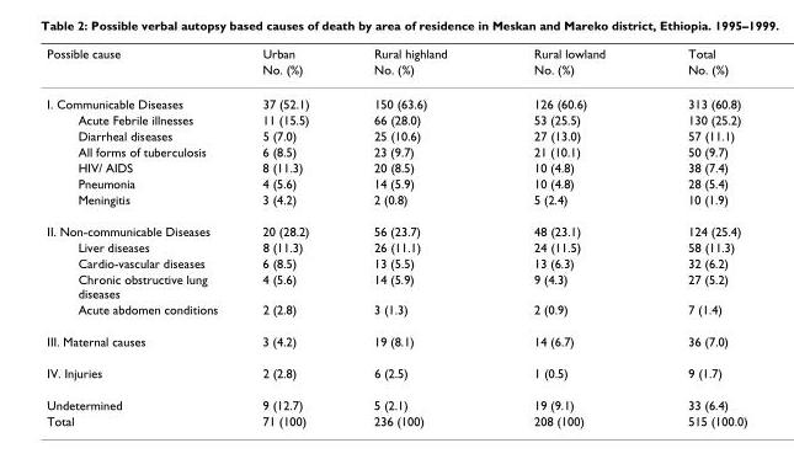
<table><thead><tr><td rowspan="2">Possible cause</td><td rowspan="2">Urban No. (%)</td><td rowspan="2">Rural highland No. (%)</td><td rowspan="2">Rural lowland No. (%)</td><td rowspan="2">Total No. (%)</td></tr><tr></tr></thead><tbody><tr><td>I. Communicable Diseases</td><td>37 (52.1)</td><td>150 (63.6)</td><td>126 (60.6)</td><td>313 (60.8)</td></tr><tr><td>Acute Febrile illnesses</td><td>11 (15.5)</td><td>66 (28.0)</td><td>53 (25.5)</td><td>130 (25.2)</td></tr><tr><td>Diarrheal diseases</td><td>5 (7.0)</td><td>25 (10.6)</td><td>27 (13.0)</td><td>57 (11.1)</td></tr><tr><td>All forms of tuberculosis</td><td>6 (8.5)</td><td>23 (9.7)</td><td>21 (10.1)</td><td>50 (9.7)</td></tr><tr><td>HIV/ AIDS</td><td>8 (11.3)</td><td>20 (8.5)</td><td>10 (4.8)</td><td>38 (7.4)</td></tr><tr><td>Pneumonia</td><td>4 (5.6)</td><td>14 (5.9)</td><td>10 (4.8)</td><td>28 (5.4)</td></tr><tr><td>Meningitis</td><td>3 (4.2)</td><td>2 (0.8)</td><td>5 (2.4)</td><td>10 (1.9)</td></tr><tr><td>II. Non-communicable Diseases</td><td>20 (28.2)</td><td>56 (23.7)</td><td>48 (23.1)</td><td>124 (25.4)</td></tr><tr><td>Liver diseases</td><td>8 (11.3)</td><td>26 (11.1)</td><td>24 (11.5)</td><td>58 (11.3)</td></tr><tr><td>Cardio-vascular diseases</td><td>6 (8.5)</td><td>13 (5.5)</td><td>13 (6.3)</td><td>32 (6.2)</td></tr><tr><td>Chronic obstructive lung diseases</td><td>4 (5.6)</td><td>14 (5.9)</td><td>9 (4.3)</td><td>27 (5.2)</td></tr><tr><td>Acute abdomen conditions</td><td>2 (2.8)</td><td>3 (1.3)</td><td>2 (0.9)</td><td>7 (1.4)</td></tr><tr><td>III. Maternal causes</td><td>3 (4.2)</td><td>19 (8.1)</td><td>14 (6.7)</td><td>36 (7.0)</td></tr><tr><td>IV. Injuries</td><td>2 (2.8)</td><td>6 (2.5)</td><td>1 (0.5)</td><td>9 (1.7)</td></tr><tr><td>Undetermined</td><td>9 (12.7)</td><td>5 (2.1)</td><td>19 (9.1)</td><td>33 (6.4)</td></tr><tr><td>Total</td><td>71 (100)</td><td>236 (100)</td><td>208 (100)</td><td>515 (100.0)</td></tr></tbody></table>